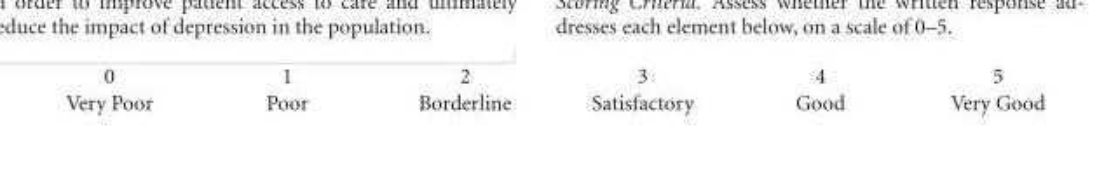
<table><tbody><tr><td>0</td><td>1</td><td>2</td><td>3</td><td>4</td><td>5</td></tr><tr><td>Very Poor</td><td>Poor</td><td>Borderline</td><td>Satisfactory</td><td>Good</td><td>Very Good</td></tr></tbody></table>